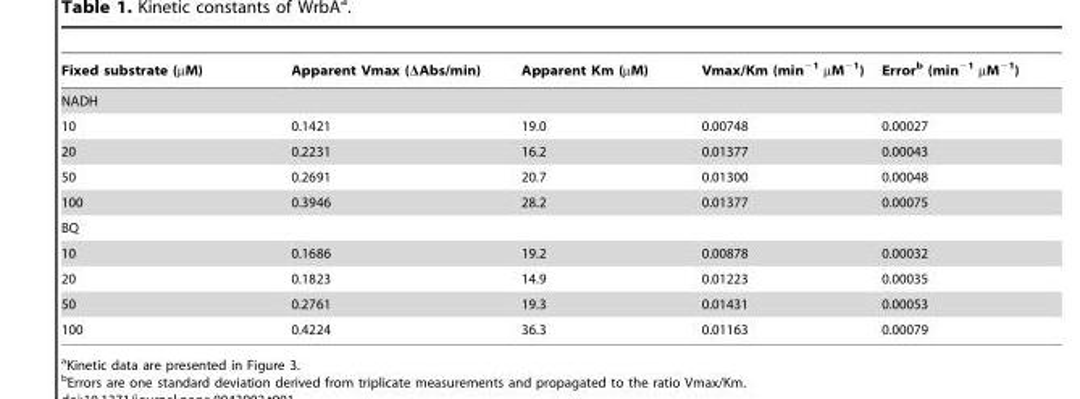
<table><thead><tr><td>Fixed substrate (µM)</td><td>Apparent Vmax (ΔAbs/min)</td><td>Apparent Km (µM)</td><td>Vmax/Km (min<sup>−1</sup> µM<sup>−1</sup>)</td><td>Error<sup>b</sup> (min<sup>−1</sup> µM<sup>−1</sup>)</td></tr></thead><tbody><tr><td colspan="5">NADH</td></tr><tr><td>10</td><td>0.1421</td><td>19.0</td><td>0.00748</td><td>0.00027</td></tr><tr><td>20</td><td>0.2231</td><td>16.2</td><td>0.01377</td><td>0.00043</td></tr><tr><td>50</td><td>0.2691</td><td>20.7</td><td>0.01300</td><td>0.00048</td></tr><tr><td>100</td><td>0.3946</td><td>28.2</td><td>0.01377</td><td>0.00075</td></tr><tr><td colspan="5">BQ</td></tr><tr><td>10</td><td>0.1686</td><td>19.2</td><td>0.00878</td><td>0.00032</td></tr><tr><td>20</td><td>0.1823</td><td>14.9</td><td>0.01223</td><td>0.00035</td></tr><tr><td>50</td><td>0.2761</td><td>19.3</td><td>0.01431</td><td>0.00053</td></tr><tr><td>100</td><td>0.4224</td><td>36.3</td><td>0.01163</td><td>0.00079</td></tr></tbody></table>